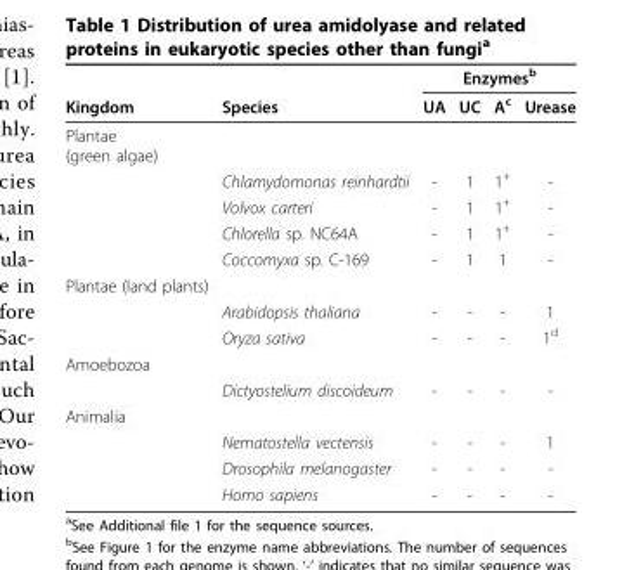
<table><thead><tr><td rowspan="2">Kingdom</td><td rowspan="2">Species</td><td colspan="4">Enzymes<sup>b</sup></td></tr><tr><td>UA</td><td>UC</td><td>A<sup>c</sup></td><td>Urease</td></tr></thead><tbody><tr><td colspan="6">Plantae (green algae)</td></tr><tr><td></td><td>Chlamydomonas reinhardtii</td><td>-</td><td>1</td><td>1<sup>+</sup></td><td>-</td></tr><tr><td></td><td>Volvox carteri</td><td>-</td><td>1</td><td>1<sup>+</sup></td><td>-</td></tr><tr><td></td><td>Chlorella sp. NC64A</td><td>-</td><td>1</td><td>1<sup>+</sup></td><td>-</td></tr><tr><td></td><td>Coccomyxa sp. C-169</td><td>-</td><td>1</td><td>1</td><td>-</td></tr><tr><td colspan="6">Plantae (land plants)</td></tr><tr><td></td><td>Arabidopsis thaliana</td><td>-</td><td>-</td><td>-</td><td>1</td></tr><tr><td></td><td>Oryza sativa</td><td>-</td><td>-</td><td>-</td><td>1<sup>d</sup></td></tr><tr><td colspan="6">Amoebozoa</td></tr><tr><td></td><td>Dictyostelium discoideum</td><td>-</td><td>-</td><td>-</td><td>-</td></tr><tr><td colspan="6">Animalia</td></tr><tr><td></td><td>Nematostella vectensis</td><td>-</td><td>-</td><td>-</td><td>1</td></tr><tr><td></td><td>Drosophila melanogaster</td><td>-</td><td>-</td><td>-</td><td>-</td></tr><tr><td></td><td>Homo sapiens</td><td>-</td><td>-</td><td>-</td><td>-</td></tr></tbody></table>